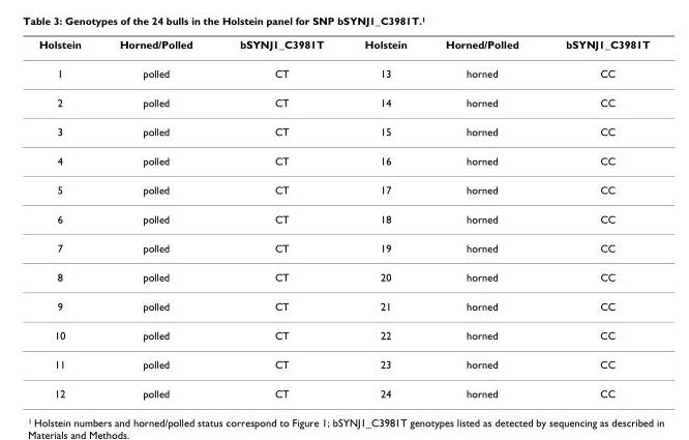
<table><thead><tr><td>Holstein</td><td>Horned/Polled</td><td>bSYNJ1_C3981T</td><td>Holstein</td><td>Horned/Polled</td><td>bSYNJ1_C3981T</td></tr></thead><tbody><tr><td>1</td><td>polled</td><td>CT</td><td>13</td><td>horned</td><td>CC</td></tr><tr><td>2</td><td>polled</td><td>CT</td><td>14</td><td>horned</td><td>CC</td></tr><tr><td>3</td><td>polled</td><td>CT</td><td>15</td><td>horned</td><td>CC</td></tr><tr><td>4</td><td>polled</td><td>CT</td><td>16</td><td>horned</td><td>CC</td></tr><tr><td>5</td><td>polled</td><td>CT</td><td>17</td><td>horned</td><td>CC</td></tr><tr><td>6</td><td>polled</td><td>CT</td><td>18</td><td>horned</td><td>CC</td></tr><tr><td>7</td><td>polled</td><td>CT</td><td>19</td><td>horned</td><td>CC</td></tr><tr><td>8</td><td>polled</td><td>CT</td><td>20</td><td>horned</td><td>CC</td></tr><tr><td>9</td><td>polled</td><td>CT</td><td>21</td><td>horned</td><td>CC</td></tr><tr><td>10</td><td>polled</td><td>CT</td><td>22</td><td>horned</td><td>CC</td></tr><tr><td>11</td><td>polled</td><td>CT</td><td>23</td><td>horned</td><td>CC</td></tr><tr><td>12</td><td>polled</td><td>CT</td><td>24</td><td>horned</td><td>CC</td></tr></tbody></table>